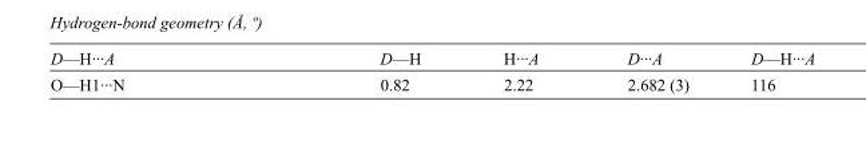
<table><tbody><tr><td>D—H···A</td><td>D—H</td><td>H···A</td><td>D···A</td><td>D—H···A</td></tr><tr><td>O—H1···N</td><td>0.82</td><td>2.22</td><td>2.682 (3)</td><td>116</td></tr></tbody></table>